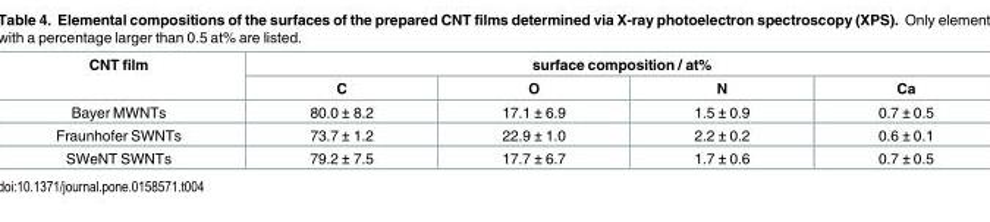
<table><thead><tr><td rowspan="2">CNT film</td><td colspan="4">surface composition / at%</td></tr><tr><td>C</td><td>O</td><td>N</td><td>Ca</td></tr></thead><tbody><tr><td>Bayer MWNTs</td><td>80.0 ± 8.2</td><td>17.1 ± 6.9</td><td>1.5 ± 0.9</td><td>0.7 ± 0.5</td></tr><tr><td>Fraunhofer SWNTs</td><td>73.7 ± 1.2</td><td>22.9 ± 1.0</td><td>2.2 ± 0.2</td><td>0.6 ± 0.1</td></tr><tr><td>SWeNT SWNTs</td><td>79.2 ± 7.5</td><td>17.7 ± 6.7</td><td>1.7 ± 0.6</td><td>0.7 ± 0.5</td></tr></tbody></table>